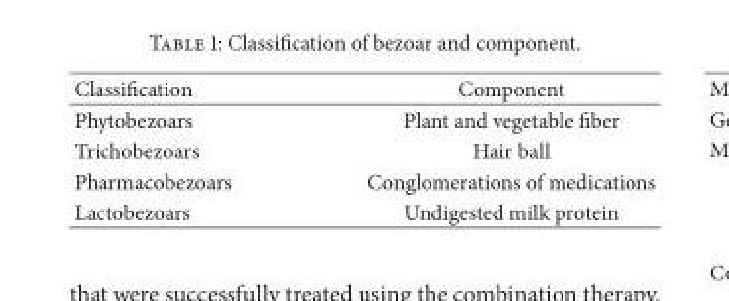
<table><thead><tr><td>Classification</td><td>Component</td></tr></thead><tbody><tr><td>Phytobezoars</td><td>Plant and vegetable fiber</td></tr><tr><td>Trichobezoars</td><td>Hair ball</td></tr><tr><td>Pharmacobezoars</td><td>Conglomerations of medications</td></tr><tr><td>Lactobezoars</td><td>Undigested milk protein</td></tr></tbody></table>